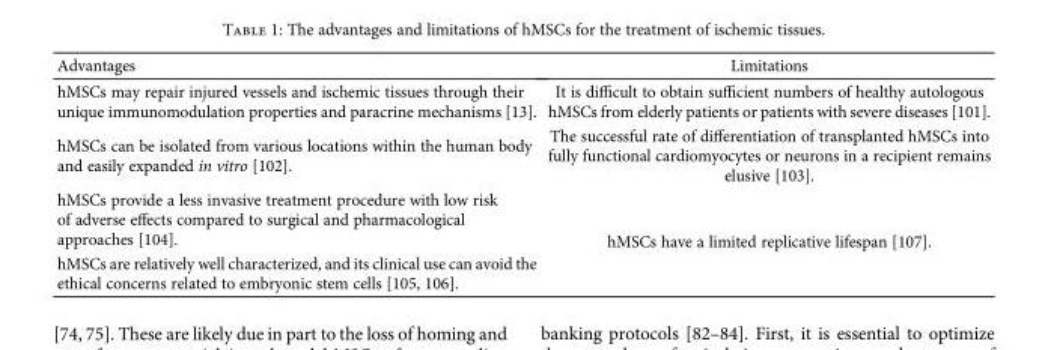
<table><thead><tr><td>Advantages</td><td>Limitations</td></tr></thead><tbody><tr><td>hMSCs may repair injured vessels and ischemic tissues through their unique immunomodulation properties and paracrine mechanisms [13].</td><td>It is difficult to obtain sufficient numbers of healthy autologous hMSCs from elderly patients or patients with severe diseases [101].</td></tr><tr><td>hMSCs can be isolated from various locations within the human body and easily expanded in vitro [102].</td><td>The successful rate of differentiation of transplanted hMSCs into fully functional cardiomyocytes or neurons in a recipient remains elusive [103].</td></tr><tr><td>hMSCs provide a less invasive treatment procedure with low risk of adverse effects compared to surgical and pharmacological approaches [104].</td><td rowspan="2">hMSCs have a limited replicative lifespan [107].</td></tr><tr><td>hMSCs are relatively well characterized, and its clinical use can avoid the ethical concerns related to embryonic stem cells [105, 106].</td></tr></tbody></table>